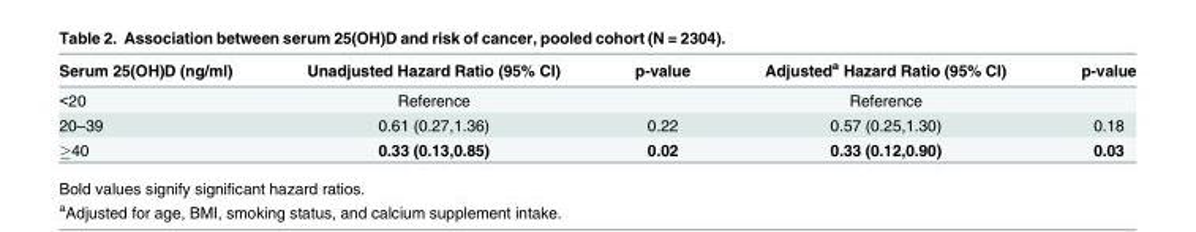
<table><thead><tr><td>Serum 25(OH)D (ng/ml)</td><td>Unadjusted Hazard Ratio (95% CI)</td><td>p-value</td><td>Adjusted<sup>a</sup> Hazard Ratio (95% CI)</td><td>p-value</td></tr></thead><tbody><tr><td>&lt;20</td><td>Reference</td><td></td><td>Reference</td><td></td></tr><tr><td>20–39</td><td>0.61 (0.27,1.36)</td><td>0.22</td><td>0.57 (0.25,1.30)</td><td>0.18</td></tr><tr><td>≥40</td><td>0.33 (0.13,0.85)</td><td>0.02</td><td>0.33 (0.12,0.90)</td><td>0.03</td></tr></tbody></table>